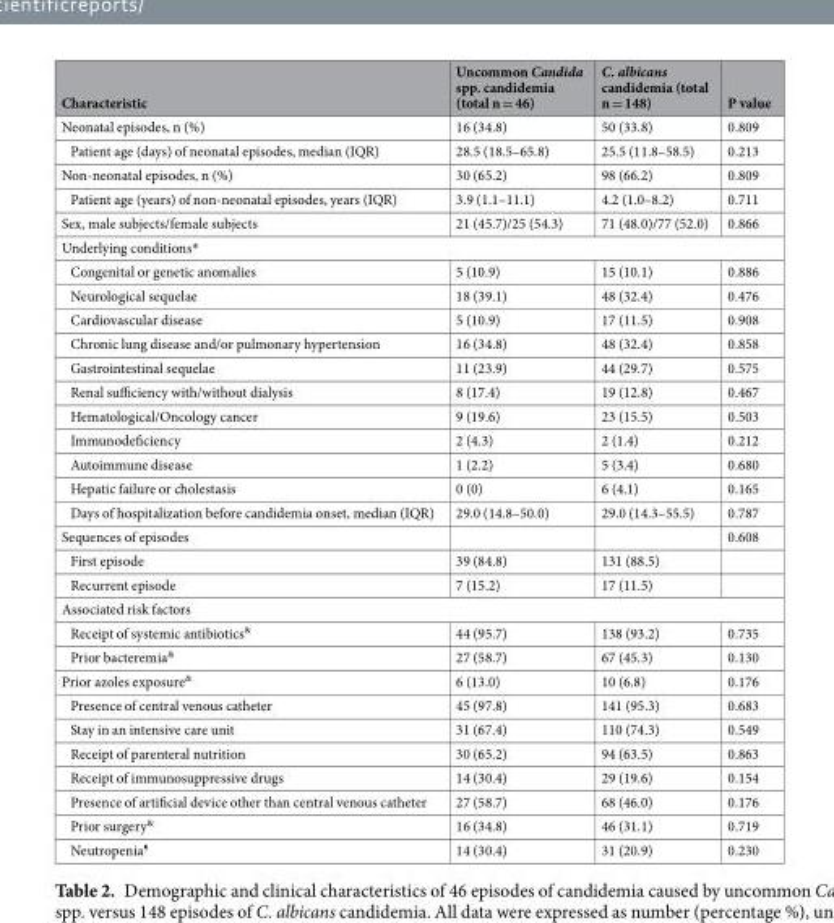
<table><thead><tr><td>Characteristic</td><td>Uncommon Candida spp. candidemia (total n = 46)</td><td>C. albicans candidemia (total n = 148)</td><td>P value</td></tr></thead><tbody><tr><td>Neonatal episodes, n (%)</td><td>16 (34.8)</td><td>50 (33.8)</td><td>0.809</td></tr><tr><td>Patient age (days) of neonatal episodes, median (IQR)</td><td>28.5 (18.5–65.8)</td><td>25.5 (11.8–58.5)</td><td>0.213</td></tr><tr><td>Non-neonatal episodes, n (%)</td><td>30 (65.2)</td><td>98 (66.2)</td><td>0.809</td></tr><tr><td>Patient age (years) of non-neonatal episodes, years (IQR)</td><td>3.9 (1.1–11.1)</td><td>4.2 (1.0–8.2)</td><td>0.711</td></tr><tr><td>Sex, male subjects/female subjects</td><td>21 (45.7)/25 (54.3)</td><td>71 (48.0)/77 (52.0)</td><td>0.866</td></tr><tr><td colspan="4">Underlying conditions*</td></tr><tr><td>Congenital or genetic anomalies</td><td>5 (10.9)</td><td>15 (10.1)</td><td>0.886</td></tr><tr><td>Neurological sequelae</td><td>18 (39.1)</td><td>48 (32.4)</td><td>0.476</td></tr><tr><td>Cardiovascular disease</td><td>5 (10.9)</td><td>17 (11.5)</td><td>0.908</td></tr><tr><td>Chronic lung disease and/or pulmonary hypertension</td><td>16 (34.8)</td><td>48 (32.4)</td><td>0.858</td></tr><tr><td>Gastrointestinal sequelae</td><td>11 (23.9)</td><td>44 (29.7)</td><td>0.575</td></tr><tr><td>Renal sufficiency with/without dialysis</td><td>8 (17.4)</td><td>19 (12.8)</td><td>0.467</td></tr><tr><td>Hematological/Oncology cancer</td><td>9 (19.6)</td><td>23 (15.5)</td><td>0.503</td></tr><tr><td>Immunodeficiency</td><td>2 (4.3)</td><td>2 (1.4)</td><td>0.212</td></tr><tr><td>Autoimmune disease</td><td>1 (2.2)</td><td>5 (3.4)</td><td>0.680</td></tr><tr><td>Hepatic failure or cholestasis</td><td>0 (0)</td><td>6 (4.1)</td><td>0.165</td></tr><tr><td>Days of hospitalization before candidemia onset, median (IQR)</td><td>29.0 (14.8–50.0)</td><td>29.0 (14.3–55.5)</td><td>0.787</td></tr><tr><td>Sequences of episodes</td><td></td><td></td><td>0.608</td></tr><tr><td>First episode</td><td>39 (84.8)</td><td>131 (88.5)</td><td></td></tr><tr><td>Recurrent episode</td><td>7 (15.2)</td><td>17 (11.5)</td><td></td></tr><tr><td colspan="4">Associated risk factors</td></tr><tr><td>Receipt of systemic antibiotics<sup>&amp;</sup></td><td>44 (95.7)</td><td>138 (93.2)</td><td>0.735</td></tr><tr><td>Prior bacteremia<sup>&amp;</sup></td><td>27 (58.7)</td><td>67 (45.3)</td><td>0.130</td></tr><tr><td>Prior azoles exposure<sup>&amp;</sup></td><td>6 (13.0)</td><td>10 (6.8)</td><td>0.176</td></tr><tr><td>Presence of central venous catheter</td><td>45 (97.8)</td><td>141 (95.3)</td><td>0.683</td></tr><tr><td>Stay in an intensive care unit</td><td>31 (67.4)</td><td>110 (74.3)</td><td>0.549</td></tr><tr><td>Receipt of parenteral nutrition</td><td>30 (65.2)</td><td>94 (63.5)</td><td>0.863</td></tr><tr><td>Receipt of immunosuppressive drugs</td><td>14 (30.4)</td><td>29 (19.6)</td><td>0.154</td></tr><tr><td>Presence of artificial device other than central venous catheter</td><td>27 (58.7)</td><td>68 (46.0)</td><td>0.176</td></tr><tr><td>Prior surgery<sup>&amp;</sup></td><td>16 (34.8)</td><td>46 (31.1)</td><td>0.719</td></tr><tr><td>Neutropenia<sup>¶</sup></td><td>14 (30.4)</td><td>31 (20.9)</td><td>0.230</td></tr></tbody></table>